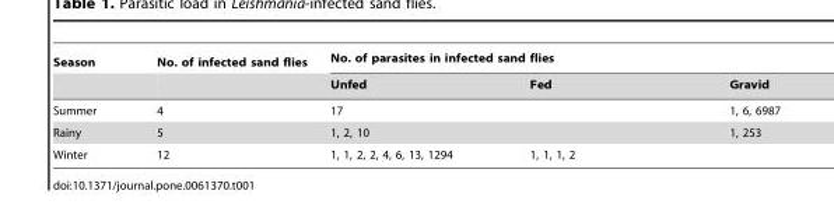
<table><thead><tr><td rowspan="2">Season</td><td rowspan="2">No. of infected sand flies</td><td colspan="3">No. of parasites in infected sand flies</td></tr><tr><td>Unfed</td><td>Fed</td><td>Gravid</td></tr></thead><tbody><tr><td>Summer</td><td>4</td><td>17</td><td></td><td>1, 6, 6987</td></tr><tr><td>Rainy</td><td>5</td><td>1, 2, 10</td><td></td><td>1, 253</td></tr><tr><td>Winter</td><td>12</td><td>1, 1, 2, 2, 4, 6, 13, 1294</td><td>1, 1, 1, 2</td><td></td></tr></tbody></table>